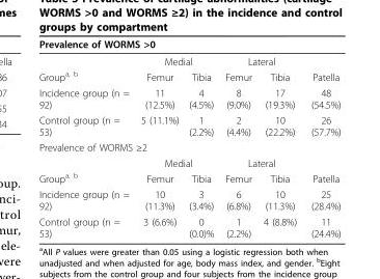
<table><thead><tr><td colspan="6">Prevalence of WORMS &gt;0</td></tr><tr><td rowspan="2">Group<sup>a, b</sup></td><td colspan="2">Medial</td><td colspan="2">Lateral</td><td rowspan="2">Patella</td></tr><tr><td>Femur</td><td>Tibia</td><td>Femur</td><td>Tibia</td></tr></thead><tbody><tr><td>Incidence group (n = 92)</td><td>11 (12.5%)</td><td>4 (4.5%)</td><td>8 (9.0%)</td><td>17 (19.3%)</td><td>48 (54.5%)</td></tr><tr><td>Control group (n = 53)</td><td>5 (11.1%)</td><td>1 (2.2%)</td><td>2 (4.4%)</td><td>10 (22.2%)</td><td>26 (57.7%)</td></tr><tr><td colspan="6">Prevalence of WORMS ≥2</td></tr><tr><td></td><td colspan="2">Medial</td><td colspan="2">Lateral</td><td></td></tr><tr><td>Group<sup>a, b</sup></td><td>Femur</td><td>Tibia</td><td>Femur</td><td>Tibia</td><td>Patella</td></tr><tr><td>Incidence group (n = 92)</td><td>10 (11.3%)</td><td>3 (3.4%)</td><td>6 (6.8%)</td><td>10 (11.3%)</td><td>25 (28.4%)</td></tr><tr><td>Control group (n = 53)</td><td>3 (6.6%)</td><td>0 (0.0)%</td><td>1 (2.2%)</td><td>4 (8.8%)</td><td>11 (24.4%)</td></tr></tbody></table>